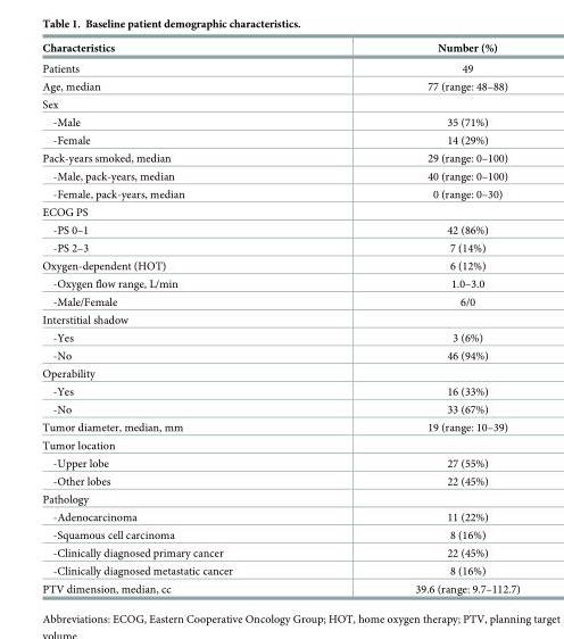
<table><thead><tr><td>Characteristics</td><td>Number (%)</td></tr></thead><tbody><tr><td>Patients</td><td>49</td></tr><tr><td>Age, median</td><td>77 (range: 48–88)</td></tr><tr><td colspan="2">Sex</td></tr><tr><td>-Male</td><td>35 (71%)</td></tr><tr><td>-Female</td><td>14 (29%)</td></tr><tr><td>Pack-years smoked, median</td><td>29 (range: 0–100)</td></tr><tr><td>-Male, pack-years, median</td><td>40 (range: 0–100)</td></tr><tr><td>-Female, pack-years, median</td><td>0 (range: 0–30)</td></tr><tr><td colspan="2">ECOG PS</td></tr><tr><td>-PS 0–1</td><td>42 (86%)</td></tr><tr><td>-PS 2–3</td><td>7 (14%)</td></tr><tr><td>Oxygen-dependent (HOT)</td><td>6 (12%)</td></tr><tr><td>-Oxygen flow range, L/min</td><td>1.0–3.0</td></tr><tr><td>-Male/Female</td><td>6/0</td></tr><tr><td colspan="2">Interstitial shadow</td></tr><tr><td>-Yes</td><td>3 (6%)</td></tr><tr><td>-No</td><td>46 (94%)</td></tr><tr><td colspan="2">Operability</td></tr><tr><td>-Yes</td><td>16 (33%)</td></tr><tr><td>-No</td><td>33 (67%)</td></tr><tr><td>Tumor diameter, median, mm</td><td>19 (range: 10–39)</td></tr><tr><td colspan="2">Tumor location</td></tr><tr><td>-Upper lobe</td><td>27 (55%)</td></tr><tr><td>-Other lobes</td><td>22 (45%)</td></tr><tr><td colspan="2">Pathology</td></tr><tr><td>-Adenocarcinoma</td><td>11 (22%)</td></tr><tr><td>-Squamous cell carcinoma</td><td>8 (16%)</td></tr><tr><td>-Clinically diagnosed primary cancer</td><td>22 (45%)</td></tr><tr><td>-Clinically diagnosed metastatic cancer</td><td>8 (16%)</td></tr><tr><td>PTV dimension, median, cc</td><td>39.6 (range: 9.7–112.7)</td></tr></tbody></table>